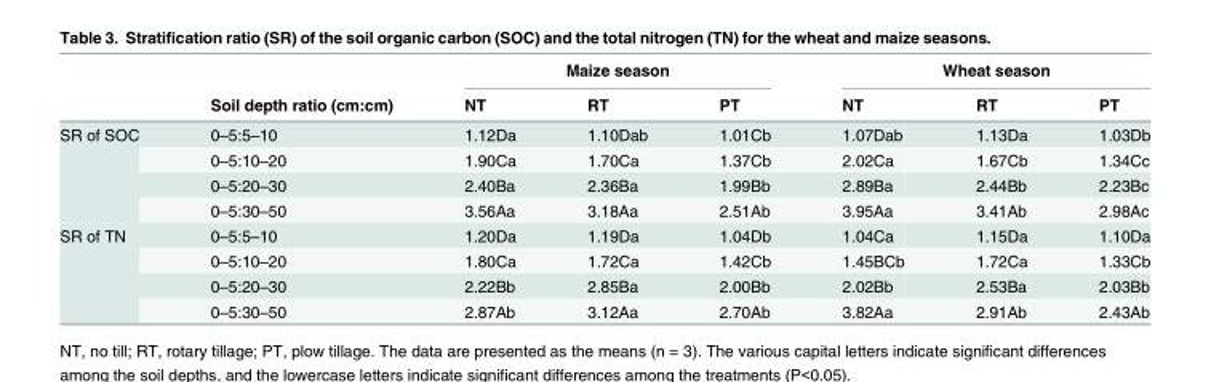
<table><thead><tr><td rowspan="2"></td><td rowspan="2">Soil depth ratio (cm:cm)</td><td colspan="3">Maize season</td><td colspan="3">Wheat season</td></tr><tr><td>NT</td><td>RT</td><td>PT</td><td>NT</td><td>RT</td><td>PT</td></tr></thead><tbody><tr><td rowspan="4">SR of SOC</td><td>0–5:5–10</td><td>1.12Da</td><td>1.10Dab</td><td>1.01Cb</td><td>1.07Dab</td><td>1.13Da</td><td>1.03Db</td></tr><tr><td>0–5:10–20</td><td>1.90Ca</td><td>1.70Ca</td><td>1.37Cb</td><td>2.02Ca</td><td>1.67Cb</td><td>1.34Cc</td></tr><tr><td>0–5:20–30</td><td>2.40Ba</td><td>2.36Ba</td><td>1.99Bb</td><td>2.89Ba</td><td>2.44Bb</td><td>2.23Bc</td></tr><tr><td>0–5:30–50</td><td>3.56Aa</td><td>3.18Aa</td><td>2.51Ab</td><td>3.95Aa</td><td>3.41Ab</td><td>2.98Ac</td></tr><tr><td rowspan="4">SR of TN</td><td>0–5:5–10</td><td>1.20Da</td><td>1.19Da</td><td>1.04Db</td><td>1.04Ca</td><td>1.15Da</td><td>1.10Da</td></tr><tr><td>0–5:10–20</td><td>1.80Ca</td><td>1.72Ca</td><td>1.42Cb</td><td>1.45BCb</td><td>1.72Ca</td><td>1.33Cb</td></tr><tr><td>0–5:20–30</td><td>2.22Bb</td><td>2.85Ba</td><td>2.00Bb</td><td>2.02Bb</td><td>2.53Ba</td><td>2.03Bb</td></tr><tr><td>0–5:30–50</td><td>2.87Ab</td><td>3.12Aa</td><td>2.70Ab</td><td>3.82Aa</td><td>2.91Ab</td><td>2.43Ab</td></tr></tbody></table>